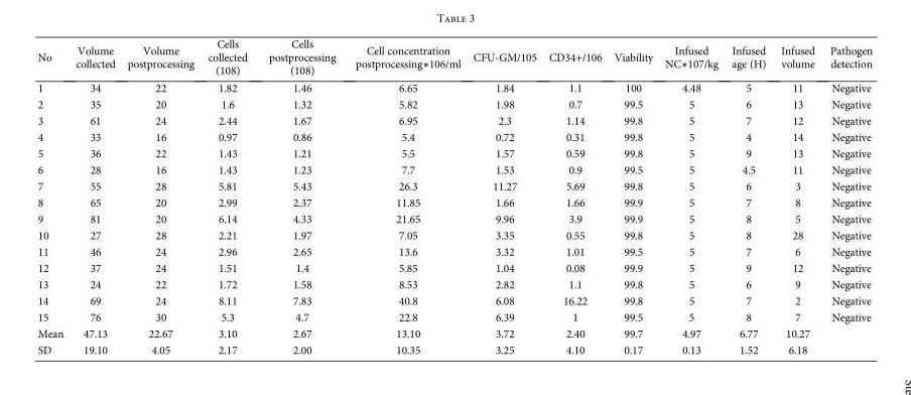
<table><thead><tr><td>No</td><td>Volume collected</td><td>Volume postprocessing</td><td>Cells collected (108)</td><td>Cells postprocessing (108)</td><td>Cell concentration postprocessing∗106/ml</td><td>CFU-GM/105</td><td>CD34+/106</td><td>Viability</td><td>Infused NC∗107/kg</td><td>Infused age (H)</td><td>Infused volume</td><td>Pathogen detection</td></tr></thead><tbody><tr><td>1</td><td>34</td><td>22</td><td>1.82</td><td>1.46</td><td>6.65</td><td>1.84</td><td>1.1</td><td>100</td><td>4.48</td><td>5</td><td>11</td><td>Negative</td></tr><tr><td>2</td><td>35</td><td>20</td><td>1.6</td><td>1.32</td><td>5.82</td><td>1.98</td><td>0.7</td><td>99.5</td><td>5</td><td>6</td><td>13</td><td>Negative</td></tr><tr><td>3</td><td>61</td><td>24</td><td>2.44</td><td>1.67</td><td>6.95</td><td>2.3</td><td>1.14</td><td>99.8</td><td>5</td><td>7</td><td>12</td><td>Negative</td></tr><tr><td>4</td><td>33</td><td>16</td><td>0.97</td><td>0.86</td><td>5.4</td><td>0.72</td><td>0.31</td><td>99.8</td><td>5</td><td>4</td><td>14</td><td>Negative</td></tr><tr><td>5</td><td>36</td><td>22</td><td>1.43</td><td>1.21</td><td>5.5</td><td>1.57</td><td>0.59</td><td>99.8</td><td>5</td><td>9</td><td>13</td><td>Negative</td></tr><tr><td>6</td><td>28</td><td>16</td><td>1.43</td><td>1.23</td><td>7.7</td><td>1.53</td><td>0.9</td><td>99.5</td><td>5</td><td>4.5</td><td>11</td><td>Negative</td></tr><tr><td>7</td><td>55</td><td>28</td><td>5.81</td><td>5.43</td><td>26.3</td><td>11.27</td><td>5.69</td><td>99.8</td><td>5</td><td>6</td><td>3</td><td>Negative</td></tr><tr><td>8</td><td>65</td><td>20</td><td>2.99</td><td>2.37</td><td>11.85</td><td>1.66</td><td>1.66</td><td>99.9</td><td>5</td><td>7</td><td>8</td><td>Negative</td></tr><tr><td>9</td><td>81</td><td>20</td><td>6.14</td><td>4.33</td><td>21.65</td><td>9.96</td><td>3.9</td><td>99.9</td><td>5</td><td>8</td><td>5</td><td>Negative</td></tr><tr><td>10</td><td>27</td><td>28</td><td>2.21</td><td>1.97</td><td>7.05</td><td>3.35</td><td>0.55</td><td>99.8</td><td>5</td><td>8</td><td>28</td><td>Negative</td></tr><tr><td>11</td><td>46</td><td>24</td><td>2.96</td><td>2.65</td><td>13.6</td><td>3.32</td><td>1.01</td><td>99.5</td><td>5</td><td>7</td><td>6</td><td>Negative</td></tr><tr><td>12</td><td>37</td><td>24</td><td>1.51</td><td>1.4</td><td>5.85</td><td>1.04</td><td>0.08</td><td>99.9</td><td>5</td><td>9</td><td>12</td><td>Negative</td></tr><tr><td>13</td><td>24</td><td>22</td><td>1.72</td><td>1.58</td><td>8.53</td><td>2.82</td><td>1.1</td><td>99.8</td><td>5</td><td>6</td><td>9</td><td>Negative</td></tr><tr><td>14</td><td>69</td><td>24</td><td>8.11</td><td>7.83</td><td>40.8</td><td>6.08</td><td>16.22</td><td>99.8</td><td>5</td><td>7</td><td>2</td><td>Negative</td></tr><tr><td>15</td><td>76</td><td>30</td><td>5.3</td><td>4.7</td><td>22.8</td><td>6.39</td><td>1</td><td>99.5</td><td>5</td><td>8</td><td>7</td><td>Negative</td></tr><tr><td>Mean</td><td>47.13</td><td>22.67</td><td>3.10</td><td>2.67</td><td>13.10</td><td>3.72</td><td>2.40</td><td>99.7</td><td>4.97</td><td>6.77</td><td>10.27</td><td></td></tr><tr><td>SD</td><td>19.10</td><td>4.05</td><td>2.17</td><td>2.00</td><td>10.35</td><td>3.25</td><td>4.10</td><td>0.17</td><td>0.13</td><td>1.52</td><td>6.18</td><td></td></tr></tbody></table>